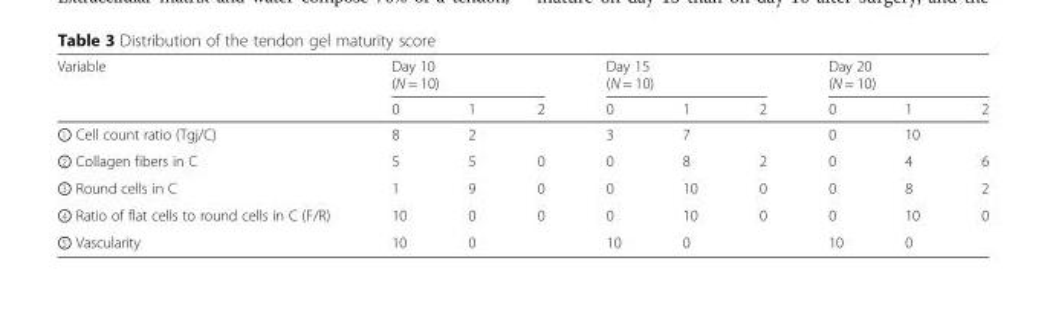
<table><thead><tr><td rowspan="2">Variable</td><td colspan="3">Day 10 (N = 10)</td><td colspan="3">Day 15 (N = 10)</td><td colspan="3">Day 20 (N = 10)</td></tr><tr><td>0</td><td>1</td><td>2</td><td>0</td><td>1</td><td>2</td><td>0</td><td>1</td><td>2</td></tr></thead><tbody><tr><td>① Cell count ratio (Tgj/C)</td><td>8</td><td>2</td><td></td><td>3</td><td>7</td><td></td><td>0</td><td>10</td><td></td></tr><tr><td>② Collagen fibers in C</td><td>5</td><td>5</td><td>0</td><td>0</td><td>8</td><td>2</td><td>0</td><td>4</td><td>6</td></tr><tr><td>③ Round cells in C</td><td>1</td><td>9</td><td>0</td><td>0</td><td>10</td><td>0</td><td>0</td><td>8</td><td>2</td></tr><tr><td>④ Ratio of flat cells to round cells in C (F/R)</td><td>10</td><td>0</td><td>0</td><td>0</td><td>10</td><td>0</td><td>0</td><td>10</td><td>0</td></tr><tr><td>⑤ Vascularity</td><td>10</td><td>0</td><td></td><td>10</td><td>0</td><td></td><td>10</td><td>0</td><td></td></tr></tbody></table>